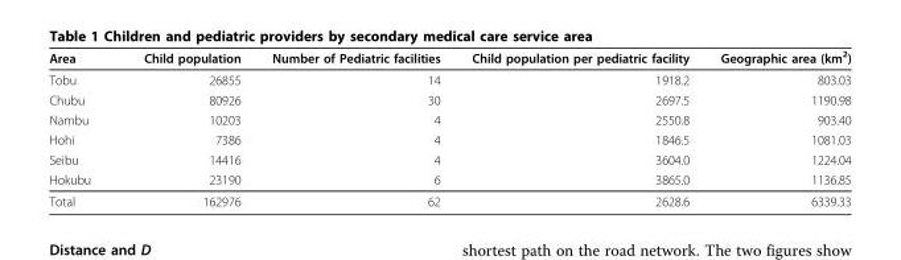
<table><thead><tr><td>Area</td><td>Child population</td><td>Number of Pediatric facilities</td><td>Child population per pediatric facility</td><td>Geographic area (km<sup>2</sup>)</td></tr></thead><tbody><tr><td>Tobu</td><td>26855</td><td>14</td><td>1918.2</td><td>803.03</td></tr><tr><td>Chubu</td><td>80926</td><td>30</td><td>2697.5</td><td>1190.98</td></tr><tr><td>Nambu</td><td>10203</td><td>4</td><td>2550.8</td><td>903.40</td></tr><tr><td>Hohi</td><td>7386</td><td>4</td><td>1846.5</td><td>1081.03</td></tr><tr><td>Seibu</td><td>14416</td><td>4</td><td>3604.0</td><td>1224.04</td></tr><tr><td>Hokubu</td><td>23190</td><td>6</td><td>3865.0</td><td>1136.85</td></tr><tr><td>Total</td><td>162976</td><td>62</td><td>2628.6</td><td>6339.33</td></tr></tbody></table>